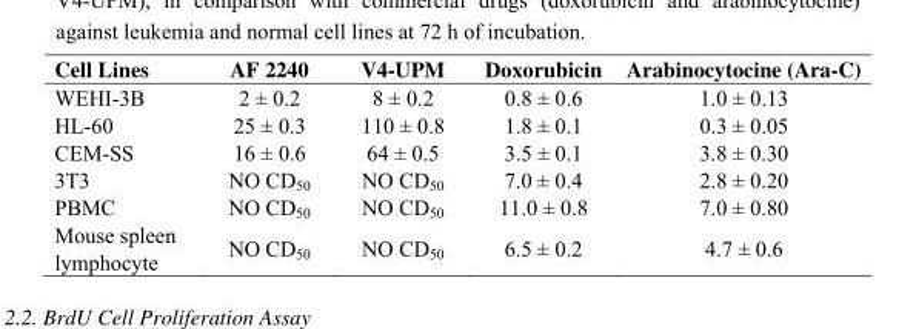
<table><thead><tr><td>Cell Lines</td><td>AF 2240</td><td>V4-UPM</td><td>Doxorubicin</td><td>Arabinocytocine (Ara-C)</td></tr></thead><tbody><tr><td>WEHI-3B</td><td>2 ± 0.2</td><td>8 ± 0.2</td><td>0.8 ± 0.6</td><td>1.0 ± 0.13</td></tr><tr><td>HL-60</td><td>25 ± 0.3</td><td>110 ± 0.8</td><td>1.8 ± 0.1</td><td>0.3 ± 0.05</td></tr><tr><td>CEM-SS</td><td>16 ± 0.6</td><td>64 ± 0.5</td><td>3.5 ± 0.1</td><td>3.8 ± 0.30</td></tr><tr><td>3T3</td><td>NO CD<sub>50</sub></td><td>NO CD<sub>50</sub></td><td>7.0 ± 0.4</td><td>2.8 ± 0.20</td></tr><tr><td>PBMC</td><td>NO CD<sub>50</sub></td><td>NO CD<sub>50</sub></td><td>11.0 ± 0.8</td><td>7.0 ± 0.80</td></tr><tr><td>Mouse spleen lymphocyte</td><td>NO CD<sub>50</sub></td><td>NO CD<sub>50</sub></td><td>6.5 ± 0.2</td><td>4.7 ± 0.6</td></tr></tbody></table>